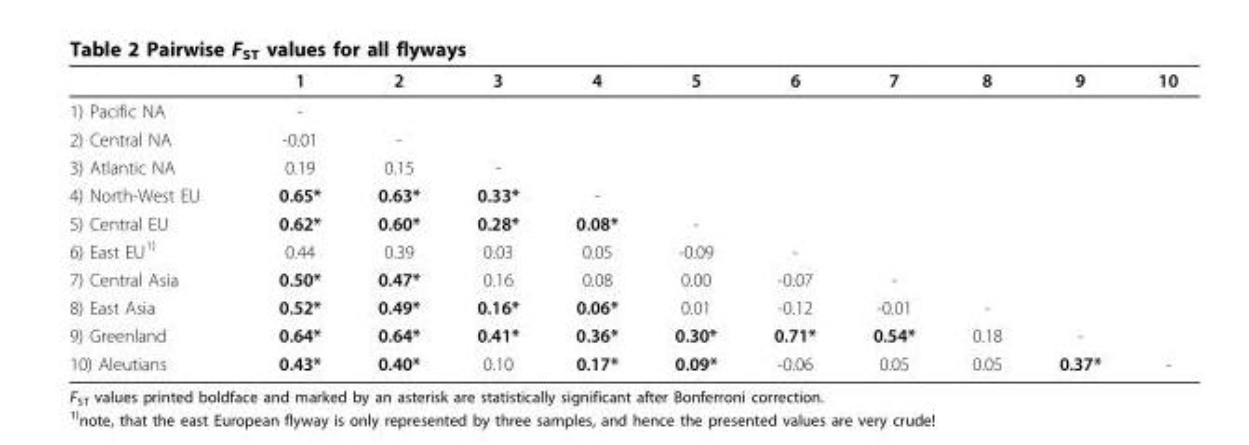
<table><thead><tr><td></td><td>1</td><td>2</td><td>3</td><td>4</td><td>5</td><td>6</td><td>7</td><td>8</td><td>9</td><td>10</td></tr></thead><tbody><tr><td>1) Pacific NA</td><td>-</td><td></td><td></td><td></td><td></td><td></td><td></td><td></td><td></td><td></td></tr><tr><td>2) Central NA</td><td>-0.01</td><td>-</td><td></td><td></td><td></td><td></td><td></td><td></td><td></td><td></td></tr><tr><td>3) Atlantic NA</td><td>0.19</td><td>0.15</td><td>-</td><td></td><td></td><td></td><td></td><td></td><td></td><td></td></tr><tr><td>4) North-West EU</td><td>0.65*</td><td>0.63*</td><td>0.33*</td><td>-</td><td></td><td></td><td></td><td></td><td></td><td></td></tr><tr><td>5) Central EU</td><td>0.62*</td><td>0.60*</td><td>0.28*</td><td>0.08*</td><td>-</td><td></td><td></td><td></td><td></td><td></td></tr><tr><td>6) East EU<sup>1)</sup></td><td>0.44</td><td>0.39</td><td>0.03</td><td>0.05</td><td>-0.09</td><td>-</td><td></td><td></td><td></td><td></td></tr><tr><td>7) Central Asia</td><td>0.50*</td><td>0.47*</td><td>0.16</td><td>0.08</td><td>0.00</td><td>-0.07</td><td>-</td><td></td><td></td><td></td></tr><tr><td>8) East Asia</td><td>0.52*</td><td>0.49*</td><td>0.16*</td><td>0.06*</td><td>0.01</td><td>-0.12</td><td>-0.01</td><td>-</td><td></td><td></td></tr><tr><td>9) Greenland</td><td>0.64*</td><td>0.64*</td><td>0.41*</td><td>0.36*</td><td>0.30*</td><td>0.71*</td><td>0.54*</td><td>0.18</td><td>-</td><td></td></tr><tr><td>10) Aleutians</td><td>0.43*</td><td>0.40*</td><td>0.10</td><td>0.17*</td><td>0.09*</td><td>-0.06</td><td>0.05</td><td>0.05</td><td>0.37*</td><td>-</td></tr></tbody></table>